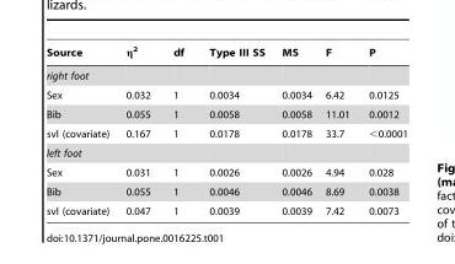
<table><thead><tr><td>Source</td><td>η<sup>2</sup></td><td>df</td><td>Type III SS</td><td>MS</td><td>F</td><td>P</td></tr></thead><tbody><tr><td colspan="7">right foot</td></tr><tr><td>Sex</td><td>0.032</td><td>1</td><td>0.0034</td><td>0.0034</td><td>6.42</td><td>0.0125</td></tr><tr><td>Bib</td><td>0.055</td><td>1</td><td>0.0058</td><td>0.0058</td><td>11.01</td><td>0.0012</td></tr><tr><td>svl (covariate)</td><td>0.167</td><td>1</td><td>0.0178</td><td>0.0178</td><td>33.7</td><td>&lt;0.0001</td></tr><tr><td colspan="7">left foot</td></tr><tr><td>Sex</td><td>0.031</td><td>1</td><td>0.0026</td><td>0.0026</td><td>4.94</td><td>0.028</td></tr><tr><td>Bib</td><td>0.055</td><td>1</td><td>0.0046</td><td>0.0046</td><td>8.69</td><td>0.0038</td></tr><tr><td>svl (covariate)</td><td>0.047</td><td>1</td><td>0.0039</td><td>0.0039</td><td>7.42</td><td>0.0073</td></tr></tbody></table>